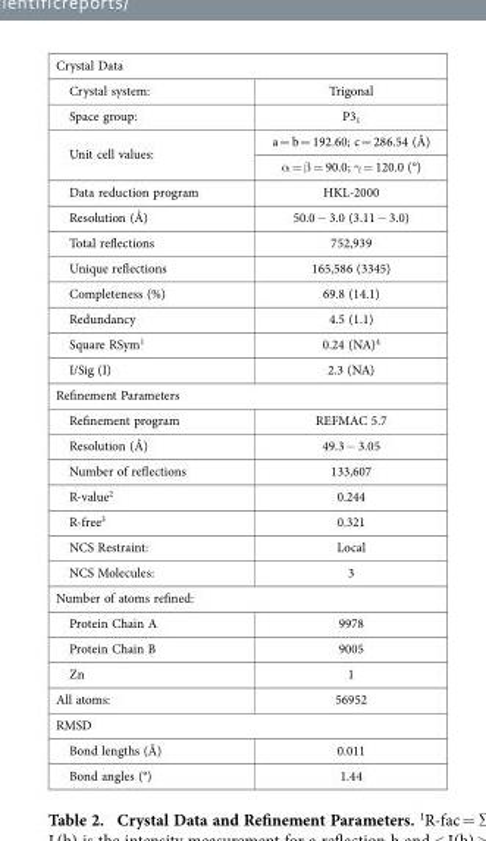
<table><tbody><tr><td colspan="2">Crystal Data</td></tr><tr><td>Crystal system:</td><td>Trigonal</td></tr><tr><td>Space group:</td><td>P3<sub>1</sub></td></tr><tr><td rowspan="2">Unit cell values:</td><td>a = b = 192.60; c = 286.54 (Å)</td></tr><tr><td>α = β = 90.0; γ = 120.0 (°)</td></tr><tr><td>Data reduction program</td><td>HKL-2000</td></tr><tr><td>Resolution (Å)</td><td>50.0 − 3.0 (3.11 − 3.0)</td></tr><tr><td>Total reflections</td><td>752,939</td></tr><tr><td>Unique reflections</td><td>165,586 (3345)</td></tr><tr><td>Completeness (%)</td><td>69.8 (14.1)</td></tr><tr><td>Redundancy</td><td>4.5 (1.1)</td></tr><tr><td>Square RSym<sup>1</sup></td><td>0.24 (NA)<sup>4</sup></td></tr><tr><td>I/Sig (I)</td><td>2.3 (NA)</td></tr><tr><td colspan="2">Refinement Parameters</td></tr><tr><td>Refinement program</td><td>REFMAC 5.7</td></tr><tr><td>Resolution (Å)</td><td>49.3 − 3.05</td></tr><tr><td>Number of reflections</td><td>133,607</td></tr><tr><td>R-value<sup>2</sup></td><td>0.244</td></tr><tr><td>R-free<sup>3</sup></td><td>0.321</td></tr><tr><td>NCS Restraint:</td><td>Local</td></tr><tr><td>NCS Molecules:</td><td>3</td></tr><tr><td colspan="2">Number of atoms refined:</td></tr><tr><td>Protein Chain A</td><td>9978</td></tr><tr><td>Protein Chain B</td><td>9005</td></tr><tr><td>Zn</td><td>1</td></tr><tr><td>All atoms:</td><td>56952</td></tr><tr><td colspan="2">RMSD</td></tr><tr><td>Bond lengths (Å)</td><td>0.011</td></tr><tr><td>Bond angles (°)</td><td>1.44</td></tr></tbody></table>